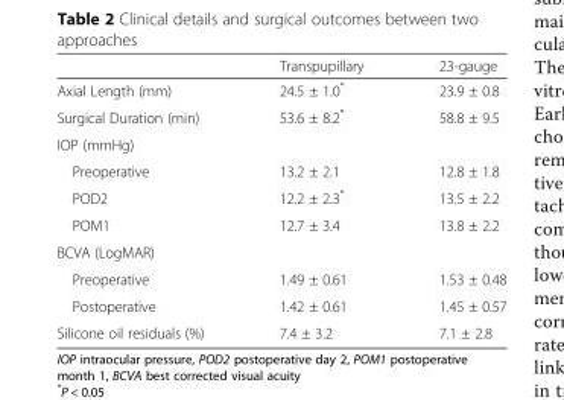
<table><thead><tr><td></td><td>Transpupillary</td><td>23-gauge</td></tr></thead><tbody><tr><td>Axial Length (mm)</td><td>24.5 ± 1.0*</td><td>23.9 ± 0.8</td></tr><tr><td>Surgical Duration (min)</td><td>53.6 ± 8.2*</td><td>58.8 ± 9.5</td></tr><tr><td colspan="3">IOP (mmHg)</td></tr><tr><td>Preoperative</td><td>13.2 ± 2.1</td><td>12.8 ± 1.8</td></tr><tr><td>POD2</td><td>12.2 ± 2.3*</td><td>13.5 ± 2.2</td></tr><tr><td>POM1</td><td>12.7 ± 3.4</td><td>13.8 ± 2.2</td></tr><tr><td colspan="3">BCVA (LogMAR)</td></tr><tr><td>Preoperative</td><td>1.49 ± 0.61</td><td>1.53 ± 0.48</td></tr><tr><td>Postoperative</td><td>1.42 ± 0.61</td><td>1.45 ± 0.57</td></tr><tr><td>Silicone oil residuals (%)</td><td>7.4 ± 3.2</td><td>7.1 ± 2.8</td></tr></tbody></table>